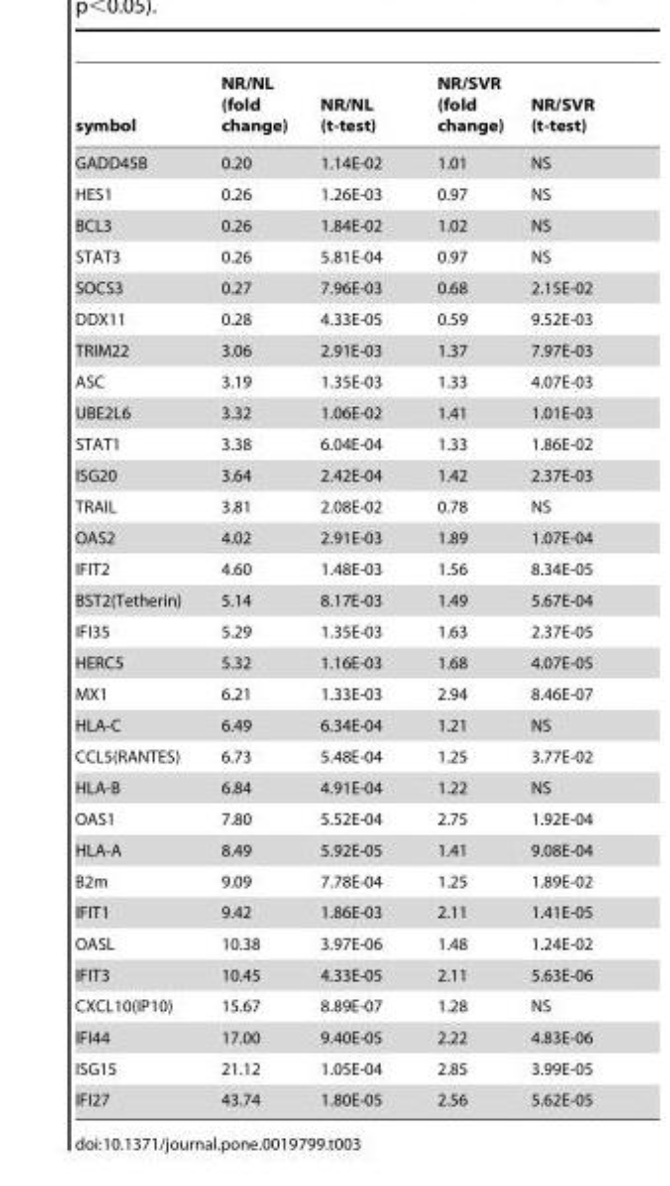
<table><thead><tr><td>symbol</td><td>NR/NL (fold change)</td><td>NR/NL (t-test)</td><td>NR/SVR (fold change)</td><td>NR/SVR (t-test)</td></tr></thead><tbody><tr><td>GADD45B</td><td>0.20</td><td>1.14E-02</td><td>1.01</td><td>NS</td></tr><tr><td>HES1</td><td>0.26</td><td>1.26E-03</td><td>0.97</td><td>NS</td></tr><tr><td>BCL3</td><td>0.26</td><td>1.84E-02</td><td>1.02</td><td>NS</td></tr><tr><td>STAT3</td><td>0.26</td><td>5.81E-04</td><td>0.97</td><td>NS</td></tr><tr><td>SOCS3</td><td>0.27</td><td>7.96E-03</td><td>0.68</td><td>2.15E-02</td></tr><tr><td>DDX11</td><td>0.28</td><td>4.33E-05</td><td>0.59</td><td>9.52E-03</td></tr><tr><td>TRIM22</td><td>3.06</td><td>2.91E-03</td><td>1.37</td><td>7.97E-03</td></tr><tr><td>ASC</td><td>3.19</td><td>1.35E-03</td><td>1.33</td><td>4.07E-03</td></tr><tr><td>UBE2L6</td><td>3.32</td><td>1.06E-02</td><td>1.41</td><td>1.01E-03</td></tr><tr><td>STAT1</td><td>3.38</td><td>6.04E-04</td><td>1.33</td><td>1.86E-02</td></tr><tr><td>ISG20</td><td>3.64</td><td>2.42E-04</td><td>1.42</td><td>2.37E-03</td></tr><tr><td>TRAIL</td><td>3.81</td><td>2.08E-02</td><td>0.78</td><td>NS</td></tr><tr><td>OAS2</td><td>4.02</td><td>2.91E-03</td><td>1.89</td><td>1.07E-04</td></tr><tr><td>IFIT2</td><td>4.60</td><td>1.48E-03</td><td>1.56</td><td>8.34E-05</td></tr><tr><td>BST2(Tetherin)</td><td>5.14</td><td>8.17E-03</td><td>1.49</td><td>5.67E-04</td></tr><tr><td>IFI35</td><td>5.29</td><td>1.35E-03</td><td>1.63</td><td>2.37E-05</td></tr><tr><td>HERC5</td><td>5.32</td><td>1.16E-03</td><td>1.68</td><td>4.07E-05</td></tr><tr><td>MX1</td><td>6.21</td><td>1.33E-03</td><td>2.94</td><td>8.46E-07</td></tr><tr><td>HLA-C</td><td>6.49</td><td>6.34E-04</td><td>1.21</td><td>NS</td></tr><tr><td>CCL5(RANTES)</td><td>6.73</td><td>5.48E-04</td><td>1.25</td><td>3.77E-02</td></tr><tr><td>HLA-B</td><td>6.84</td><td>4.91E-04</td><td>1.22</td><td>NS</td></tr><tr><td>OAS1</td><td>7.80</td><td>5.52E-04</td><td>2.75</td><td>1.92E-04</td></tr><tr><td>HLA-A</td><td>8.49</td><td>5.92E-05</td><td>1.41</td><td>9.08E-04</td></tr><tr><td>B2m</td><td>9.09</td><td>7.78E-04</td><td>1.25</td><td>1.89E-02</td></tr><tr><td>IFIT1</td><td>9.42</td><td>1.86E-03</td><td>2.11</td><td>1.41E-05</td></tr><tr><td>OASL</td><td>10.38</td><td>3.97E-06</td><td>1.48</td><td>1.24E-02</td></tr><tr><td>IFIT3</td><td>10.45</td><td>4.33E-05</td><td>2.11</td><td>5.63E-06</td></tr><tr><td>CXCL10(IP10)</td><td>15.67</td><td>8.89E-07</td><td>1.28</td><td>NS</td></tr><tr><td>IFI44</td><td>17.00</td><td>9.40E-05</td><td>2.22</td><td>4.83E-06</td></tr><tr><td>ISG15</td><td>21.12</td><td>1.05E-04</td><td>2.85</td><td>3.99E-05</td></tr><tr><td>IFI27</td><td>43.74</td><td>1.80E-05</td><td>2.56</td><td>5.62E-05</td></tr></tbody></table>